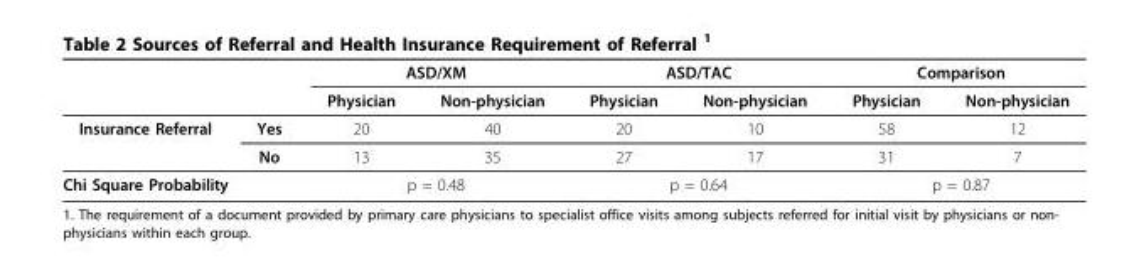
<table><thead><tr><td rowspan="2"></td><td rowspan="2"></td><td colspan="2">ASD/XM</td><td colspan="2">ASD/TAC</td><td colspan="2">Comparison</td></tr><tr><td>Physician</td><td>Non-physician</td><td>Physician</td><td>Non-physician</td><td>Physician</td><td>Non-physician</td></tr></thead><tbody><tr><td rowspan="2">Insurance Referral</td><td>Yes</td><td>20</td><td>40</td><td>20</td><td>10</td><td>58</td><td>12</td></tr><tr><td>No</td><td>13</td><td>35</td><td>27</td><td>17</td><td>31</td><td>7</td></tr><tr><td colspan="2">Chi Square Probability</td><td colspan="2">p = 0.48</td><td colspan="2">p = 0.64</td><td colspan="2">p = 0.87</td></tr></tbody></table>